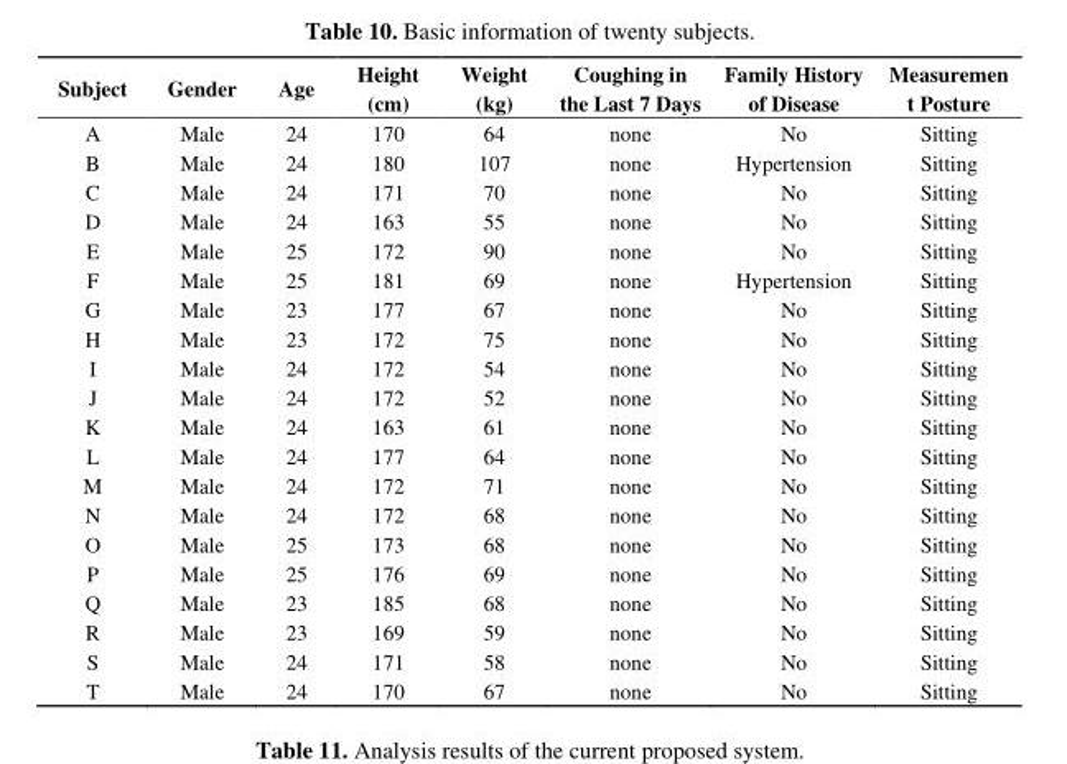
<table><thead><tr><td>Subject</td><td>Gender</td><td>Age</td><td>Height (cm)</td><td>Weight (kg)</td><td>Coughing in the Last 7 Days</td><td>Family History of Disease</td><td>Measuremen t Posture</td></tr></thead><tbody><tr><td>A</td><td>Male</td><td>24</td><td>170</td><td>64</td><td>none</td><td>No</td><td>Sitting</td></tr><tr><td>B</td><td>Male</td><td>24</td><td>180</td><td>107</td><td>none</td><td>Hypertension</td><td>Sitting</td></tr><tr><td>C</td><td>Male</td><td>24</td><td>171</td><td>70</td><td>none</td><td>No</td><td>Sitting</td></tr><tr><td>D</td><td>Male</td><td>24</td><td>163</td><td>55</td><td>none</td><td>No</td><td>Sitting</td></tr><tr><td>E</td><td>Male</td><td>25</td><td>172</td><td>90</td><td>none</td><td>No</td><td>Sitting</td></tr><tr><td>F</td><td>Male</td><td>25</td><td>181</td><td>69</td><td>none</td><td>Hypertension</td><td>Sitting</td></tr><tr><td>G</td><td>Male</td><td>23</td><td>177</td><td>67</td><td>none</td><td>No</td><td>Sitting</td></tr><tr><td>H</td><td>Male</td><td>23</td><td>172</td><td>75</td><td>none</td><td>No</td><td>Sitting</td></tr><tr><td>I</td><td>Male</td><td>24</td><td>172</td><td>54</td><td>none</td><td>No</td><td>Sitting</td></tr><tr><td>J</td><td>Male</td><td>24</td><td>172</td><td>52</td><td>none</td><td>No</td><td>Sitting</td></tr><tr><td>K</td><td>Male</td><td>24</td><td>163</td><td>61</td><td>none</td><td>No</td><td>Sitting</td></tr><tr><td>L</td><td>Male</td><td>24</td><td>177</td><td>64</td><td>none</td><td>No</td><td>Sitting</td></tr><tr><td>M</td><td>Male</td><td>24</td><td>172</td><td>71</td><td>none</td><td>No</td><td>Sitting</td></tr><tr><td>N</td><td>Male</td><td>24</td><td>172</td><td>68</td><td>none</td><td>No</td><td>Sitting</td></tr><tr><td>O</td><td>Male</td><td>25</td><td>173</td><td>68</td><td>none</td><td>No</td><td>Sitting</td></tr><tr><td>P</td><td>Male</td><td>25</td><td>176</td><td>69</td><td>none</td><td>No</td><td>Sitting</td></tr><tr><td>Q</td><td>Male</td><td>23</td><td>185</td><td>68</td><td>none</td><td>No</td><td>Sitting</td></tr><tr><td>R</td><td>Male</td><td>23</td><td>169</td><td>59</td><td>none</td><td>No</td><td>Sitting</td></tr><tr><td>S</td><td>Male</td><td>24</td><td>171</td><td>58</td><td>none</td><td>No</td><td>Sitting</td></tr><tr><td>T</td><td>Male</td><td>24</td><td>170</td><td>67</td><td>none</td><td>No</td><td>Sitting</td></tr></tbody></table>